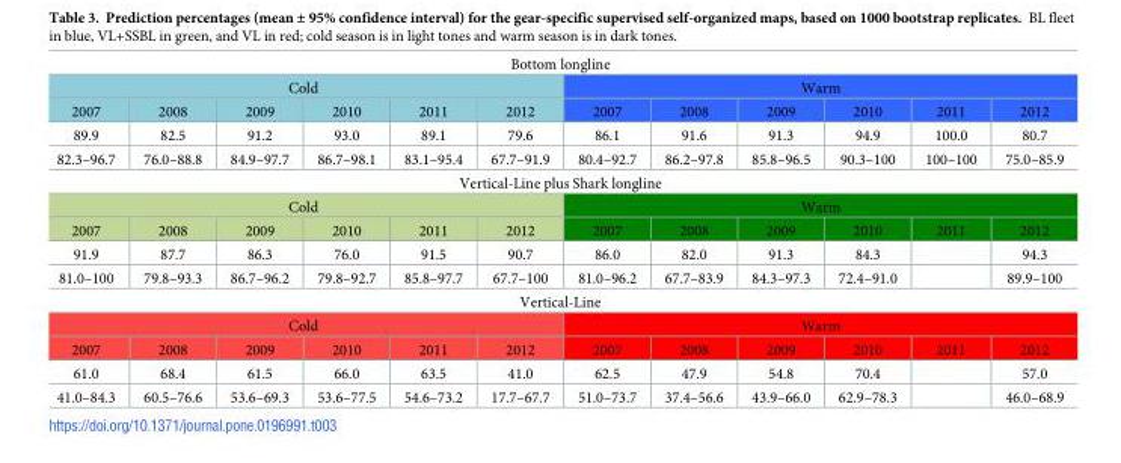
<table><tbody><tr><td colspan="12">Bottom longline</td></tr><tr><td colspan="6">Cold</td><td colspan="6">Warm</td></tr><tr><td>2007</td><td>2008</td><td>2009</td><td>2010</td><td>2011</td><td>2012</td><td>2007</td><td>2008</td><td>2009</td><td>2010</td><td>2011</td><td>2012</td></tr><tr><td>89.9</td><td>82.5</td><td>91.2</td><td>93.0</td><td>89.1</td><td>79.6</td><td>86.1</td><td>91.6</td><td>91.3</td><td>94.9</td><td>100.0</td><td>80.7</td></tr><tr><td>82.3–96.7</td><td>76.0–88.8</td><td>84.9–97.7</td><td>86.7–98.1</td><td>83.1–95.4</td><td>67.7–91.9</td><td>80.4–92.7</td><td>86.2–97.8</td><td>85.8–96.5</td><td>90.3–100</td><td>100–100</td><td>75.0–85.9</td></tr><tr><td colspan="12">Vertical-Line plus Shark longline</td></tr><tr><td colspan="6">Cold</td><td colspan="6">Warm</td></tr><tr><td>2007</td><td>2008</td><td>2009</td><td>2010</td><td>2011</td><td>2012</td><td>2007</td><td>2008</td><td>2009</td><td>2010</td><td>2011</td><td>2012</td></tr><tr><td>91.9</td><td>87.7</td><td>86.3</td><td>76.0</td><td>91.5</td><td>90.7</td><td>86.0</td><td>82.0</td><td>91.3</td><td>84.3</td><td></td><td>94.3</td></tr><tr><td>81.0–100</td><td>79.8–93.3</td><td>86.7–96.2</td><td>79.8–92.7</td><td>85.8–97.7</td><td>67.7–100</td><td>81.0–96.2</td><td>67.7–83.9</td><td>84.3–97.3</td><td>72.4–91.0</td><td></td><td>89.9–100</td></tr><tr><td colspan="12">Vertical-Line</td></tr><tr><td colspan="6">Cold</td><td colspan="6">Warm</td></tr><tr><td>2007</td><td>2008</td><td>2009</td><td>2010</td><td>2011</td><td>2012</td><td>2007</td><td>2008</td><td>2009</td><td>2010</td><td>2011</td><td>2012</td></tr><tr><td>61.0</td><td>68.4</td><td>61.5</td><td>66.0</td><td>63.5</td><td>41.0</td><td>62.5</td><td>47.9</td><td>54.8</td><td>70.4</td><td></td><td>57.0</td></tr><tr><td>41.0–84.3</td><td>60.5–76.6</td><td>53.6–69.3</td><td>53.6–77.5</td><td>54.6–73.2</td><td>17.7–67.7</td><td>51.0–73.7</td><td>37.4–56.6</td><td>43.9–66.0</td><td>62.9–78.3</td><td></td><td>46.0–68.9</td></tr></tbody></table>